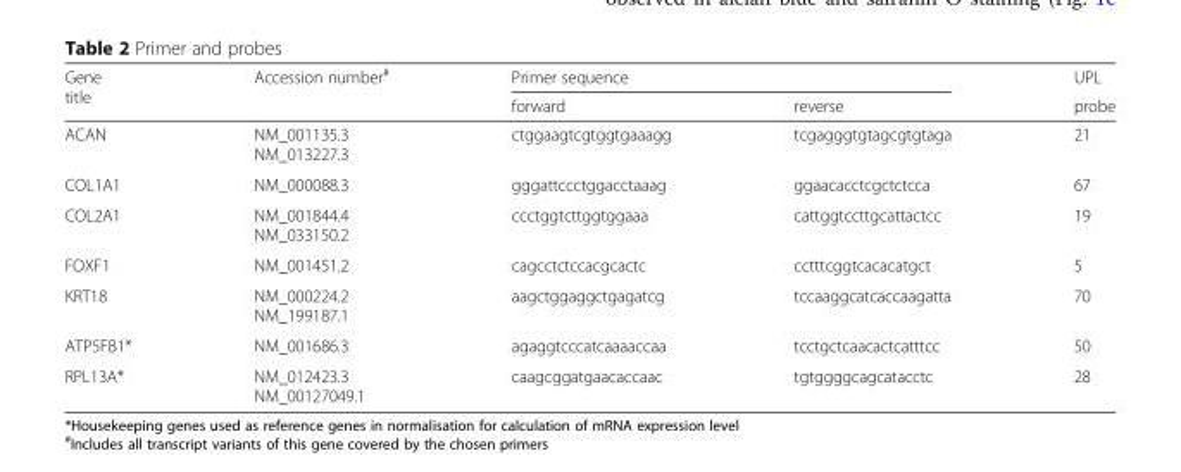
<table><thead><tr><td rowspan="2">Gene title</td><td rowspan="2">Accession number<sup>#</sup></td><td colspan="2">Primer sequence</td><td rowspan="2">UPL probe</td></tr><tr><td>forward</td><td>reverse</td></tr></thead><tbody><tr><td>ACAN</td><td>NM_001135.3 NM_013227.3</td><td>ctggaagtcgtggtgaaagg</td><td>tcgagggtgtagcgtgtaga</td><td>21</td></tr><tr><td>COL1A1</td><td>NM_000088.3</td><td>gggattccctggacctaaag</td><td>ggaacacctcgctctcca</td><td>67</td></tr><tr><td>COL2A1</td><td>NM_001844.4 NM_033150.2</td><td>ccctggtcttggtggaaa</td><td>cattggtccttgcattactcc</td><td>19</td></tr><tr><td>FOXF1</td><td>NM_001451.2</td><td>cagcctctccacgcactc</td><td>cctttcggtcacacatgct</td><td>5</td></tr><tr><td>KRT18</td><td>NM_000224.2 NM_199187.1</td><td>aagctggaggctgagatcg</td><td>tccaaggcatcaccaagatta</td><td>70</td></tr><tr><td>ATP5FB1*</td><td>NM_001686.3</td><td>agaggtcccatcaaaaccaa</td><td>tcctgctcaacactcatttcc</td><td>50</td></tr><tr><td>RPL13A*</td><td>NM_012423.3 NM_00127049.1</td><td>caagcggatgaacaccaac</td><td>tgtggggcagcatacctc</td><td>28</td></tr></tbody></table>